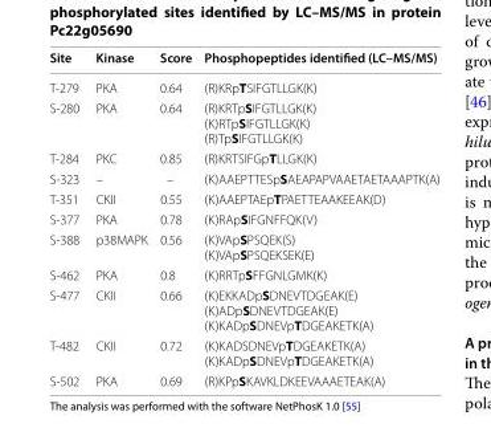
<table><thead><tr><td>Site</td><td>Kinase</td><td>Score</td><td>Phosphopeptides identified (LC–MS/MS)</td></tr></thead><tbody><tr><td>T‑279</td><td>PKA</td><td>0.64</td><td>(R)KRpTSIFGTLLGK(K)</td></tr><tr><td>S‑280</td><td>PKA</td><td>0.64</td><td>(R)KRTpSIFGTLLGK(K) (K)RTpSIFGTLLGK(K) (R)TpSIFGTLLGK(K)</td></tr><tr><td>T‑284</td><td>PKC</td><td>0.85</td><td>(R)KRTSIFGpTLLGK(K)</td></tr><tr><td>S‑323</td><td>–</td><td>–</td><td>(K)AAEPTTESpSAEAPAPVAAETAETAAAPTK(A)</td></tr><tr><td>T‑351</td><td>CKII</td><td>0.55</td><td>(K)AAEPTAEpTPAETTEAAKEEAK(D)</td></tr><tr><td>S‑377</td><td>PKA</td><td>0.78</td><td>(K)RApSIFGNFFQK(V)</td></tr><tr><td>S‑388</td><td>p38MAPK</td><td>0.56</td><td>(K)VApSPSQEK(S) (K)VApSPSQEKSEK(E)</td></tr><tr><td>S‑462</td><td>PKA</td><td>0.8</td><td>(K)RRTpSFFGNLGMK(K)</td></tr><tr><td>S‑477</td><td>CKII</td><td>0.66</td><td>(K)EKKADpSDNEVTDGEAK(E) (K)ADpSDNEVTDGEAK(E) (K)KADpSDNEVpTDGEAKETK(A)</td></tr><tr><td>T‑482</td><td>CKII</td><td>0.72</td><td>(K)KADSDNEVpTDGEAKETK(A) (K)KADpSDNEVpTDGEAKETK(A)</td></tr><tr><td>S‑502</td><td>PKA</td><td>0.69</td><td>(R)KPpSKAVKLDKEEVAAAETEAK(A)</td></tr></tbody></table>